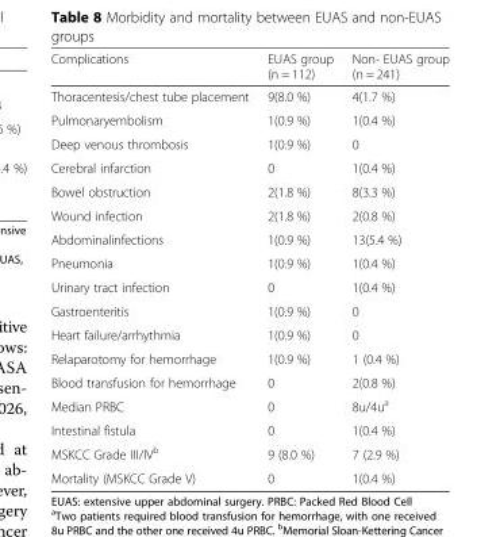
<table><thead><tr><td>Complications</td><td>EUAS group (n = 112)</td><td>Non- EUAS group (n = 241)</td></tr></thead><tbody><tr><td>Thoracentesis/chest tube placement</td><td>9(8.0 %)</td><td>4(1.7 %)</td></tr><tr><td>Pulmonaryembolism</td><td>1(0.9 %)</td><td>1(0.4 %)</td></tr><tr><td>Deep venous thrombosis</td><td>1(0.9 %)</td><td>0</td></tr><tr><td>Cerebral infarction</td><td>0</td><td>1(0.4 %)</td></tr><tr><td>Bowel obstruction</td><td>2(1.8 %)</td><td>8(3.3 %)</td></tr><tr><td>Wound infection</td><td>2(1.8 %)</td><td>2(0.8 %)</td></tr><tr><td>Abdominalinfections</td><td>1(0.9 %)</td><td>13(5.4 %)</td></tr><tr><td>Pneumonia</td><td>1(0.9 %)</td><td>1(0.4 %)</td></tr><tr><td>Urinary tract infection</td><td>0</td><td>1(0.4 %)</td></tr><tr><td>Gastroenteritis</td><td>1(0.9 %)</td><td>0</td></tr><tr><td>Heart failure/arrhythmia</td><td>1(0.9 %)</td><td>0</td></tr><tr><td>Relaparotomy for hemorrhage</td><td>1(0.9 %)</td><td>1 (0.4 %)</td></tr><tr><td>Blood transfusion for hemorrhage</td><td>0</td><td>2(0.8 %)</td></tr><tr><td>Median PRBC</td><td>0</td><td>8u/4u<sup>a</sup></td></tr><tr><td>Intestinal fistula</td><td>0</td><td>1(0.4 %)</td></tr><tr><td>MSKCC Grade III/IV<sup>b</sup></td><td>9 (8.0 %)</td><td>7 (2.9 %)</td></tr><tr><td>Mortality (MSKCC Grade V)</td><td>0</td><td>1(0.4 %)</td></tr></tbody></table>